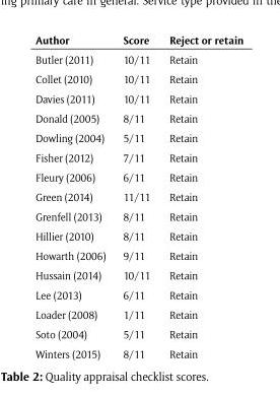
<table><thead><tr><td>Author</td><td>Score</td><td>Reject or retain</td></tr></thead><tbody><tr><td>Butler (2011)</td><td>10/11</td><td>Retain</td></tr><tr><td>Collet (2010)</td><td>10/11</td><td>Retain</td></tr><tr><td>Davies (2011)</td><td>10/11</td><td>Retain</td></tr><tr><td>Donald (2005)</td><td>8/11</td><td>Retain</td></tr><tr><td>Dowling (2004)</td><td>5/11</td><td>Retain</td></tr><tr><td>Fisher (2012)</td><td>7/11</td><td>Retain</td></tr><tr><td>Fleury (2006)</td><td>6/11</td><td>Retain</td></tr><tr><td>Green (2014)</td><td>11/11</td><td>Retain</td></tr><tr><td>Grenfell (2013)</td><td>8/11</td><td>Retain</td></tr><tr><td>Hillier (2010)</td><td>8/11</td><td>Retain</td></tr><tr><td>Howarth (2006)</td><td>9/11</td><td>Retain</td></tr><tr><td>Hussain (2014)</td><td>10/11</td><td>Retain</td></tr><tr><td>Lee (2013)</td><td>6/11</td><td>Retain</td></tr><tr><td>Loader (2008)</td><td>1/11</td><td>Retain</td></tr><tr><td>Soto (2004)</td><td>5/11</td><td>Retain</td></tr><tr><td>Winters (2015)</td><td>8/11</td><td>Retain</td></tr></tbody></table>